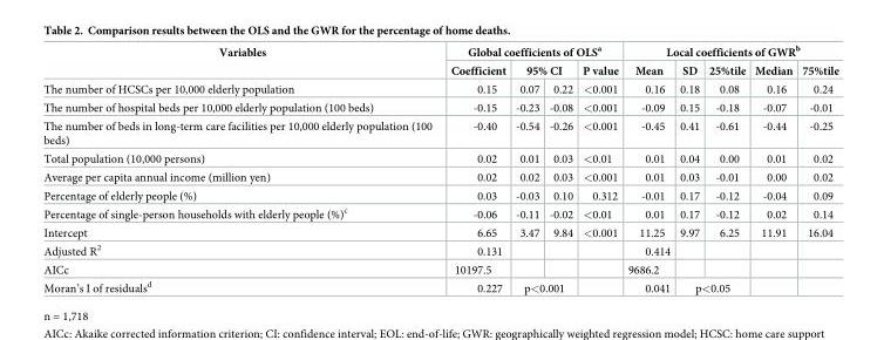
<table><thead><tr><td rowspan="3">Variables The number of HCSCs per 10,000 elderly population</td><td colspan="4">Global coefficients of OLS<sup>a</sup></td><td colspan="5">Local coefficients of GWR<sup>b</sup></td></tr><tr><td rowspan="2">Coefficient 0.15</td><td colspan="2">95% CI</td><td rowspan="2">P value &lt;0.001</td><td rowspan="2">Mean 0.16</td><td rowspan="2">SD 0.18</td><td rowspan="2">25%tile 0.08</td><td rowspan="2">Median 0.16</td><td rowspan="2">75%tile 0.24</td></tr><tr><td>0.07</td><td>0.22</td></tr></thead><tbody><tr><td>The number of hospital beds per 10,000 elderly population (100 beds)</td><td>-0.15</td><td>-0.23</td><td>-0.08</td><td>&lt;0.001</td><td>-0.09</td><td>0.15</td><td>-0.18</td><td>-0.07</td><td>-0.01</td></tr><tr><td>The number of beds in long-term care facilities per 10,000 elderly population (100 beds)</td><td>-0.40</td><td>-0.54</td><td>-0.26</td><td>&lt;0.001</td><td>-0.45</td><td>0.41</td><td>-0.61</td><td>-0.44</td><td>-0.25</td></tr><tr><td>Total population (10,000 persons)</td><td>0.02</td><td>0.01</td><td>0.03</td><td>&lt;0.01</td><td>0.01</td><td>0.04</td><td>0.00</td><td>0.01</td><td>0.02</td></tr><tr><td>Average per capita annual income (million yen)</td><td>0.02</td><td>0.02</td><td>0.03</td><td>&lt;0.001</td><td>0.01</td><td>0.03</td><td>-0.01</td><td>0.00</td><td>0.02</td></tr><tr><td>Percentage of elderly people (%)</td><td>0.03</td><td>-0.03</td><td>0.10</td><td>0.312</td><td>-0.01</td><td>0.17</td><td>-0.12</td><td>-0.04</td><td>0.09</td></tr><tr><td>Percentage of single-person households with elderly people (%)<sup>c</sup></td><td>-0.06</td><td>-0.11</td><td>-0.02</td><td>&lt;0.01</td><td>0.01</td><td>0.17</td><td>-0.12</td><td>0.02</td><td>0.14</td></tr><tr><td>Intercept</td><td>6.65</td><td>3.47</td><td>9.84</td><td>&lt;0.001</td><td>11.25</td><td>9.97</td><td>6.25</td><td>11.91</td><td>16.04</td></tr><tr><td>Adjusted R<sup>2</sup></td><td>0.131</td><td></td><td></td><td></td><td>0.414</td><td></td><td></td><td></td><td></td></tr><tr><td>AICc</td><td>10197.5</td><td></td><td></td><td></td><td>9686.2</td><td></td><td></td><td></td><td></td></tr><tr><td>Moran’s I of residuals<sup>d</sup></td><td>0.227</td><td colspan="2">p&lt;0.001</td><td></td><td>0.041</td><td colspan="2">p&lt;0.05</td><td></td><td></td></tr></tbody></table>